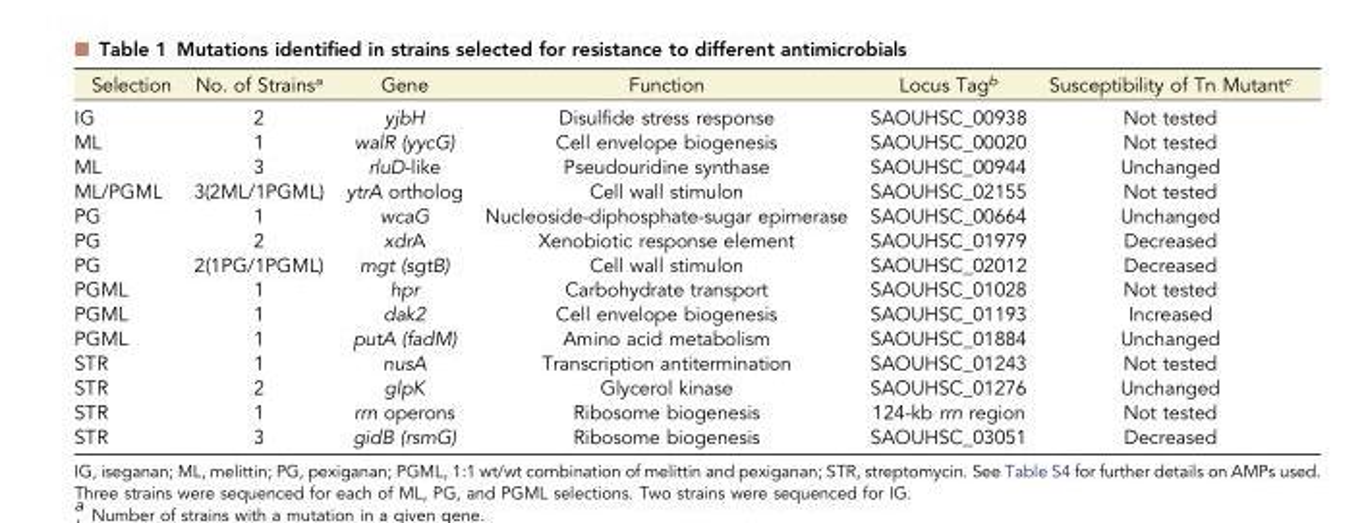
<table><thead><tr><td>Selection</td><td>No. of Strains<sup>a</sup></td><td>Gene</td><td>Function</td><td>Locus Tag<sup>b</sup></td><td>Susceptibility of Tn Mutant<sup>c</sup></td></tr></thead><tbody><tr><td>IG</td><td>2</td><td>yjbH</td><td>Disulfide stress response</td><td>SAOUHSC_00938</td><td>Not tested</td></tr><tr><td>ML</td><td>1</td><td>walR (yycG)</td><td>Cell envelope biogenesis</td><td>SAOUHSC_00020</td><td>Not tested</td></tr><tr><td>ML</td><td>3</td><td>rluD-like</td><td>Pseudouridine synthase</td><td>SAOUHSC_00944</td><td>Unchanged</td></tr><tr><td>ML/PGML</td><td>3(2ML/1PGML)</td><td>ytrA ortholog</td><td>Cell wall stimulon</td><td>SAOUHSC_02155</td><td>Not tested</td></tr><tr><td>PG</td><td>1</td><td>wcaG</td><td>Nucleoside-diphosphate-sugar epimerase</td><td>SAOUHSC_00664</td><td>Unchanged</td></tr><tr><td>PG</td><td>2</td><td>xdrA</td><td>Xenobiotic response element</td><td>SAOUHSC_01979</td><td>Decreased</td></tr><tr><td>PG</td><td>2(1PG/1PGML)</td><td>mgt (sgtB)</td><td>Cell wall stimulon</td><td>SAOUHSC_02012</td><td>Decreased</td></tr><tr><td>PGML</td><td>1</td><td>hpr</td><td>Carbohydrate transport</td><td>SAOUHSC_01028</td><td>Not tested</td></tr><tr><td>PGML</td><td>1</td><td>dak2</td><td>Cell envelope biogenesis</td><td>SAOUHSC_01193</td><td>Increased</td></tr><tr><td>PGML</td><td>1</td><td>putA (fadM)</td><td>Amino acid metabolism</td><td>SAOUHSC_01884</td><td>Unchanged</td></tr><tr><td>STR</td><td>1</td><td>nusA</td><td>Transcription antitermination</td><td>SAOUHSC_01243</td><td>Not tested</td></tr><tr><td>STR</td><td>2</td><td>glpK</td><td>Glycerol kinase</td><td>SAOUHSC_01276</td><td>Unchanged</td></tr><tr><td>STR</td><td>1</td><td>rrn operons</td><td>Ribosome biogenesis</td><td>124-kb rrn region</td><td>Not tested</td></tr><tr><td>STR</td><td>3</td><td>gidB (rsmG)</td><td>Ribosome biogenesis</td><td>SAOUHSC_03051</td><td>Decreased</td></tr></tbody></table>